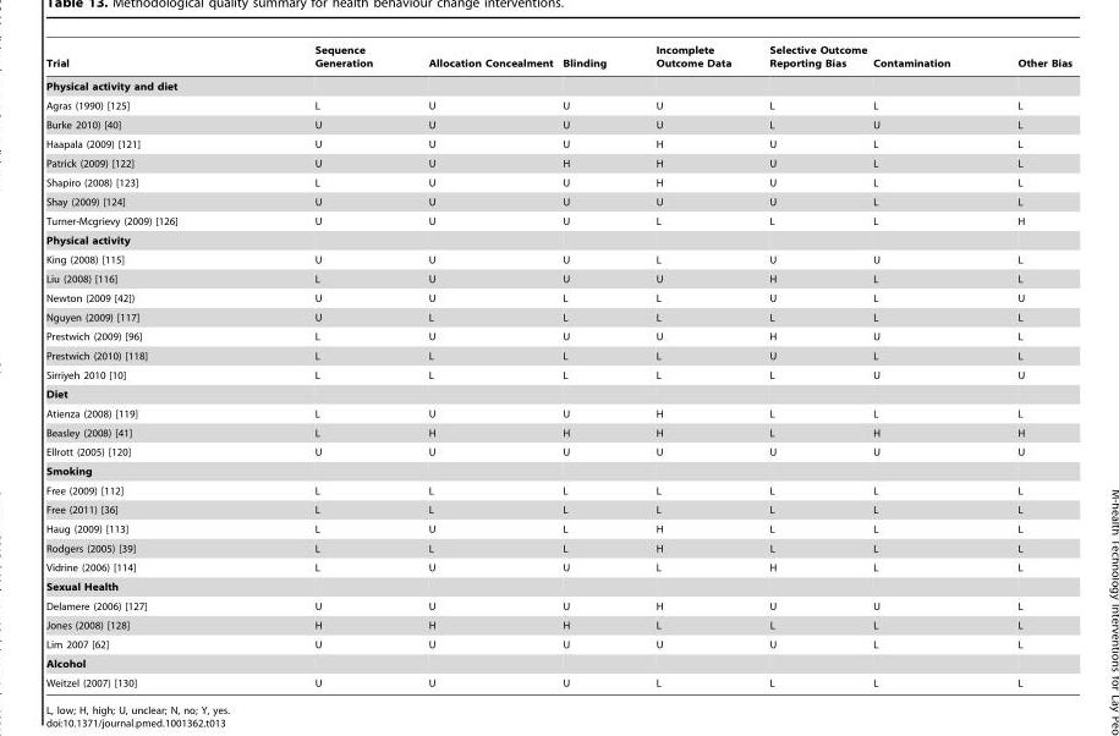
<table><thead><tr><td>Trial</td><td>Sequence Generation</td><td>Allocation Concealment</td><td>Blinding</td><td>Incomplete Outcome Data</td><td>Selective Outcome Reporting Bias</td><td>Contamination</td><td>Other Bias</td></tr></thead><tbody><tr><td colspan="8">Physical activity and diet</td></tr><tr><td>Agras (1990) [125]</td><td>L</td><td>U</td><td>U</td><td>U</td><td>L</td><td>L</td><td>L</td></tr><tr><td>Burke 2010) [40]</td><td>U</td><td>U</td><td>U</td><td>U</td><td>L</td><td>U</td><td>L</td></tr><tr><td>Haapala (2009) [121]</td><td>U</td><td>U</td><td>U</td><td>H</td><td>U</td><td>L</td><td>L</td></tr><tr><td>Patrick (2009) [122]</td><td>U</td><td>U</td><td>H</td><td>H</td><td>U</td><td>L</td><td>L</td></tr><tr><td>Shapiro (2008) [123]</td><td>L</td><td>U</td><td>U</td><td>H</td><td>U</td><td>L</td><td>L</td></tr><tr><td>Shay (2009) [124]</td><td>U</td><td>U</td><td>U</td><td>U</td><td>U</td><td>L</td><td>L</td></tr><tr><td>Turner-Mcgrievy (2009) [126]</td><td>U</td><td>U</td><td>U</td><td>L</td><td>L</td><td>L</td><td>H</td></tr><tr><td colspan="8">Physical activity</td></tr><tr><td>King (2008) [115]</td><td>U</td><td>U</td><td>U</td><td>L</td><td>U</td><td>U</td><td>L</td></tr><tr><td>Liu (2008) [116]</td><td>L</td><td>U</td><td>U</td><td>U</td><td>H</td><td>L</td><td>L</td></tr><tr><td>Newton (2009 [42])</td><td>U</td><td>U</td><td>L</td><td>L</td><td>U</td><td>L</td><td>U</td></tr><tr><td>Nguyen (2009) [117]</td><td>U</td><td>L</td><td>L</td><td>L</td><td>L</td><td>L</td><td>L</td></tr><tr><td>Prestwich (2009) [96]</td><td>L</td><td>U</td><td>U</td><td>U</td><td>H</td><td>U</td><td>L</td></tr><tr><td>Prestwich (2010) [118]</td><td>L</td><td>L</td><td>L</td><td>L</td><td>U</td><td>L</td><td>L</td></tr><tr><td>Sirriyeh 2010 [10]</td><td>L</td><td>L</td><td>L</td><td>L</td><td>L</td><td>U</td><td>U</td></tr><tr><td colspan="8">Diet</td></tr><tr><td>Atienza (2008) [119]</td><td>L</td><td>U</td><td>U</td><td>H</td><td>L</td><td>L</td><td>L</td></tr><tr><td>Beasley (2008) [41]</td><td>L</td><td>H</td><td>H</td><td>H</td><td>L</td><td>H</td><td>H</td></tr><tr><td>Ellrott (2005) [120]</td><td>U</td><td>U</td><td>U</td><td>U</td><td>U</td><td>U</td><td>U</td></tr><tr><td colspan="8">Smoking</td></tr><tr><td>Free (2009) [112]</td><td>L</td><td>L</td><td>L</td><td>L</td><td>L</td><td>L</td><td>L</td></tr><tr><td>Free (2011) [36]</td><td>L</td><td>L</td><td>L</td><td>L</td><td>L</td><td>L</td><td>L</td></tr><tr><td>Haug (2009) [113]</td><td>L</td><td>U</td><td>L</td><td>H</td><td>L</td><td>L</td><td>L</td></tr><tr><td>Rodgers (2005) [39]</td><td>L</td><td>L</td><td>L</td><td>H</td><td>L</td><td>L</td><td>L</td></tr><tr><td>Vidrine (2006) [114]</td><td>L</td><td>U</td><td>U</td><td>L</td><td>H</td><td>L</td><td>L</td></tr><tr><td colspan="8">Sexual Health</td></tr><tr><td>Delamere (2006) [127]</td><td>U</td><td>U</td><td>U</td><td>H</td><td>U</td><td>U</td><td>L</td></tr><tr><td>Jones (2008) [128]</td><td>H</td><td>H</td><td>H</td><td>L</td><td>L</td><td>L</td><td>L</td></tr><tr><td>Lim 2007 [62]</td><td>U</td><td>U</td><td>U</td><td>U</td><td>U</td><td>L</td><td>L</td></tr><tr><td colspan="8">Alcohol</td></tr><tr><td>Weitzel (2007) [130]</td><td>U</td><td>U</td><td>U</td><td>L</td><td>L</td><td>L</td><td>L</td></tr></tbody></table>